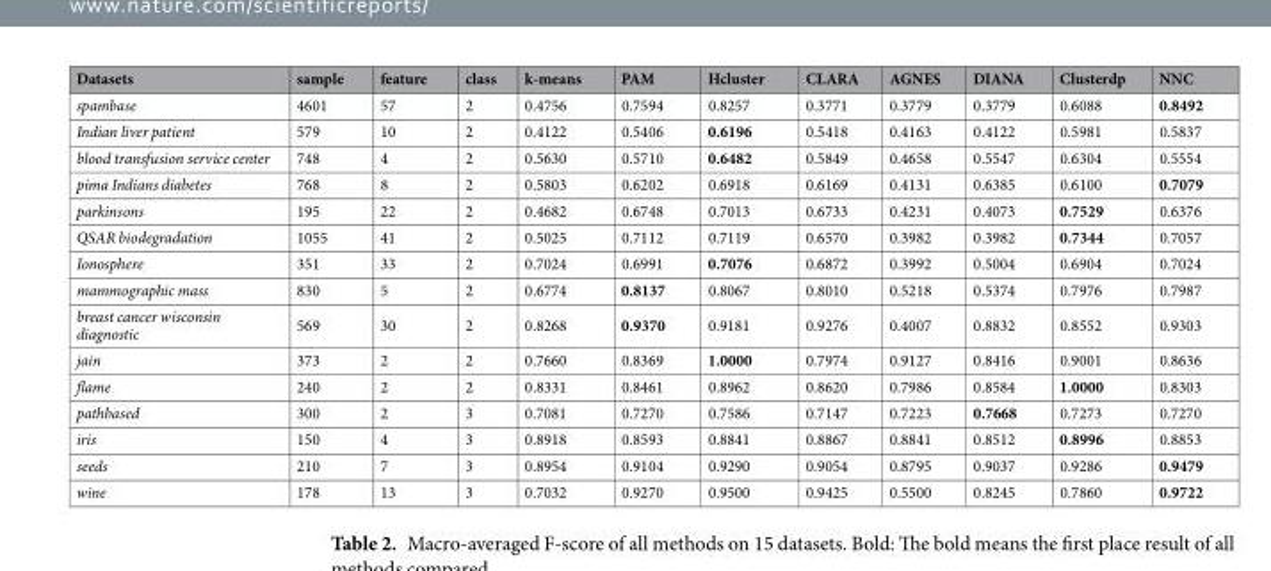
<table><thead><tr><td>Datasets</td><td>sample</td><td>feature</td><td>class</td><td>k-means</td><td>PAM</td><td>Hcluster</td><td>CLARA</td><td>AGNES</td><td>DIANA</td><td>Clusterdp</td><td>NNC</td></tr></thead><tbody><tr><td>spambase</td><td>4601</td><td>57</td><td>2</td><td>0.4756</td><td>0.7594</td><td>0.8257</td><td>0.3771</td><td>0.3779</td><td>0.3779</td><td>0.6088</td><td>0.8492</td></tr><tr><td>Indian liver patient</td><td>579</td><td>10</td><td>2</td><td>0.4122</td><td>0.5406</td><td>0.6196</td><td>0.5418</td><td>0.4163</td><td>0.4122</td><td>0.5981</td><td>0.5837</td></tr><tr><td>blood transfusion service center</td><td>748</td><td>4</td><td>2</td><td>0.5630</td><td>0.5710</td><td>0.6482</td><td>0.5849</td><td>0.4658</td><td>0.5547</td><td>0.6304</td><td>0.5554</td></tr><tr><td>pima Indians diabetes</td><td>768</td><td>8</td><td>2</td><td>0.5803</td><td>0.6202</td><td>0.6918</td><td>0.6169</td><td>0.4131</td><td>0.6385</td><td>0.6100</td><td>0.7079</td></tr><tr><td>parkinsons</td><td>195</td><td>22</td><td>2</td><td>0.4682</td><td>0.6748</td><td>0.7013</td><td>0.6733</td><td>0.4231</td><td>0.4073</td><td>0.7529</td><td>0.6376</td></tr><tr><td>QSAR biodegradation</td><td>1055</td><td>41</td><td>2</td><td>0.5025</td><td>0.7112</td><td>0.7119</td><td>0.6570</td><td>0.3982</td><td>0.3982</td><td>0.7344</td><td>0.7057</td></tr><tr><td>Ionosphere</td><td>351</td><td>33</td><td>2</td><td>0.7024</td><td>0.6991</td><td>0.7076</td><td>0.6872</td><td>0.3992</td><td>0.5004</td><td>0.6904</td><td>0.7024</td></tr><tr><td>mammographic mass</td><td>830</td><td>5</td><td>2</td><td>0.6774</td><td>0.8137</td><td>0.8067</td><td>0.8010</td><td>0.5218</td><td>0.5374</td><td>0.7976</td><td>0.7987</td></tr><tr><td>breast cancer wisconsin diagnostic</td><td>569</td><td>30</td><td>2</td><td>0.8268</td><td>0.9370</td><td>0.9181</td><td>0.9276</td><td>0.4007</td><td>0.8832</td><td>0.8552</td><td>0.9303</td></tr><tr><td>jain</td><td>373</td><td>2</td><td>2</td><td>0.7660</td><td>0.8369</td><td>1.0000</td><td>0.7974</td><td>0.9127</td><td>0.8416</td><td>0.9001</td><td>0.8636</td></tr><tr><td>flame</td><td>240</td><td>2</td><td>2</td><td>0.8331</td><td>0.8461</td><td>0.8962</td><td>0.8620</td><td>0.7986</td><td>0.8584</td><td>1.0000</td><td>0.8303</td></tr><tr><td>pathbased</td><td>300</td><td>2</td><td>3</td><td>0.7081</td><td>0.7270</td><td>0.7586</td><td>0.7147</td><td>0.7223</td><td>0.7668</td><td>0.7273</td><td>0.7270</td></tr><tr><td>iris</td><td>150</td><td>4</td><td>3</td><td>0.8918</td><td>0.8593</td><td>0.8841</td><td>0.8867</td><td>0.8841</td><td>0.8512</td><td>0.8996</td><td>0.8853</td></tr><tr><td>seeds</td><td>210</td><td>7</td><td>3</td><td>0.8954</td><td>0.9104</td><td>0.9290</td><td>0.9054</td><td>0.8795</td><td>0.9037</td><td>0.9286</td><td>0.9479</td></tr><tr><td>wine</td><td>178</td><td>13</td><td>3</td><td>0.7032</td><td>0.9270</td><td>0.9500</td><td>0.9425</td><td>0.5500</td><td>0.8245</td><td>0.7860</td><td>0.9722</td></tr></tbody></table>